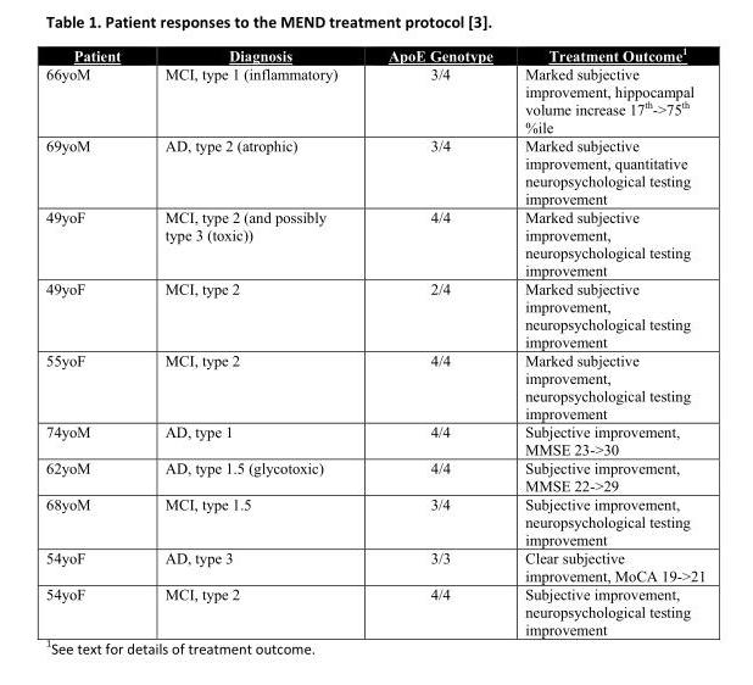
<table><thead><tr><td>Patient</td><td>Diagnosis</td><td>ApoE Genotype</td><td>Treatment Outcome<sup>1</sup></td></tr></thead><tbody><tr><td>66yoM</td><td>MCI, type 1 (inflammatory)</td><td>3/4</td><td>Marked subjective improvement, hippocampal volume increase 17<sup>th</sup>-&gt;75<sup>th</sup> %ile</td></tr><tr><td>69yoM</td><td>AD, type 2 (atrophic)</td><td>3/4</td><td>Marked subjective improvement, quantitative neuropsychological testing improvement</td></tr><tr><td>49yoF</td><td>MCI, type 2 (and possibly type 3 (toxic))</td><td>4/4</td><td>Marked subjective improvement, neuropsychological testing improvement</td></tr><tr><td>49yoF</td><td>MCI, type 2</td><td>2/4</td><td>Marked subjective improvement, neuropsychological testing improvement</td></tr><tr><td>55yoF</td><td>MCI, type 2</td><td>4/4</td><td>Marked subjective improvement, neuropsychological testing improvement</td></tr><tr><td>74yoM</td><td>AD, type 1</td><td>4/4</td><td>Subjective improvement, MMSE 23-&gt;30</td></tr><tr><td>62yoM</td><td>AD, type 1.5 (glycotoxic)</td><td>4/4</td><td>Subjective improvement, MMSE 22-&gt;29</td></tr><tr><td>68yoM</td><td>MCI, type 1.5</td><td>3/4</td><td>Subjective improvement, neuropsychological testing improvement</td></tr><tr><td>54yoF</td><td>AD, type 3</td><td>3/3</td><td>Clear subjective improvement, MoCA 19-&gt;21</td></tr><tr><td>54yoF</td><td>MCI, type 2</td><td>4/4</td><td>Subjective improvement, neuropsychological testing improvement</td></tr></tbody></table>